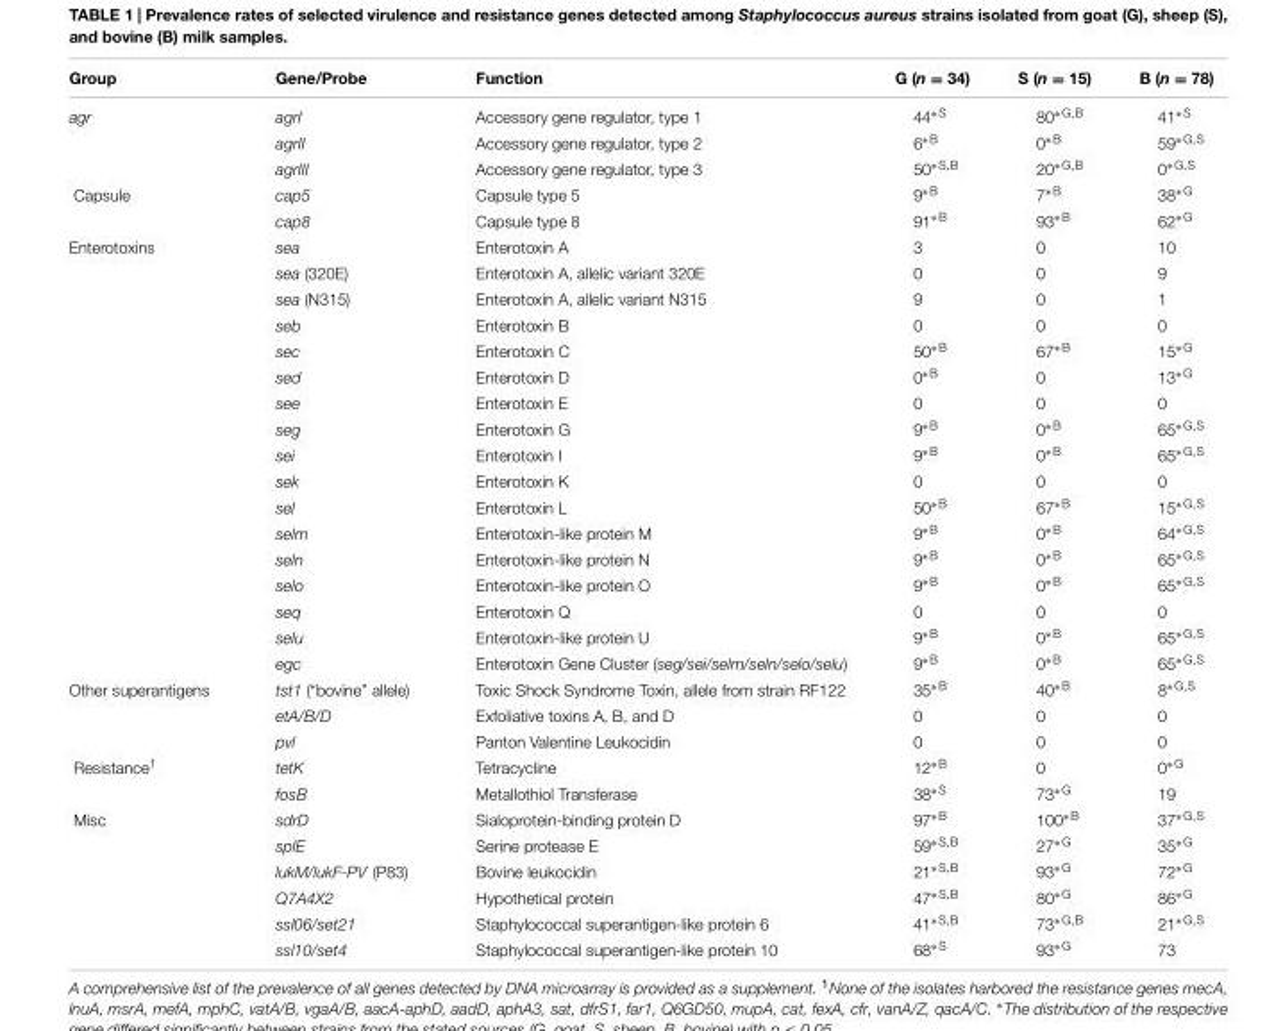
<table><thead><tr><td>Group</td><td>Gene/Probe</td><td>Function</td><td>G (n = 34)</td><td>S (n = 15)</td><td>B (n = 78)</td></tr></thead><tbody><tr><td rowspan="3">agr</td><td>agrI</td><td>Accessory gene regulator, type 1</td><td>44<sup>∗S</sup></td><td>80<sup>∗G,B</sup></td><td>41<sup>∗S</sup></td></tr><tr><td>agrII</td><td>Accessory gene regulator, type 2</td><td>6<sup>∗B</sup></td><td>0<sup>∗B</sup></td><td>59<sup>∗G,S</sup></td></tr><tr><td>agrIII</td><td>Accessory gene regulator, type 3</td><td>50<sup>∗S,B</sup></td><td>20<sup>∗G,B</sup></td><td>0<sup>∗G,S</sup></td></tr><tr><td rowspan="2">Capsule</td><td>cap5</td><td>Capsule type 5</td><td>9<sup>∗B</sup></td><td>7<sup>∗B</sup></td><td>38<sup>∗G</sup></td></tr><tr><td>cap8</td><td>Capsule type 8</td><td>91<sup>∗B</sup></td><td>93<sup>∗B</sup></td><td>62<sup>∗G</sup></td></tr><tr><td rowspan="17">Enterotoxins</td><td>sea</td><td>Enterotoxin A</td><td>3</td><td>0</td><td>10</td></tr><tr><td>sea (320E)</td><td>Enterotoxin A, allelic variant 320E</td><td>0</td><td>0</td><td>9</td></tr><tr><td>sea (N315)</td><td>Enterotoxin A, allelic variant N315</td><td>9</td><td>0</td><td>1</td></tr><tr><td>seb</td><td>Enterotoxin B</td><td>0</td><td>0</td><td>0</td></tr><tr><td>sec</td><td>Enterotoxin C</td><td>50<sup>∗B</sup></td><td>67<sup>∗B</sup></td><td>15<sup>∗G</sup></td></tr><tr><td>sed</td><td>Enterotoxin D</td><td>0<sup>∗B</sup></td><td>0</td><td>13<sup>∗G</sup></td></tr><tr><td>see</td><td>Enterotoxin E</td><td>0</td><td>0</td><td>0</td></tr><tr><td>seg</td><td>Enterotoxin G</td><td>9<sup>∗B</sup></td><td>0<sup>∗B</sup></td><td>65<sup>∗G,S</sup></td></tr><tr><td>sei</td><td>Enterotoxin I</td><td>9<sup>∗B</sup></td><td>0<sup>∗B</sup></td><td>65<sup>∗G,S</sup></td></tr><tr><td>sek</td><td>Enterotoxin K</td><td>0</td><td>0</td><td>0</td></tr><tr><td>sel</td><td>Enterotoxin L</td><td>50<sup>∗B</sup></td><td>67<sup>∗B</sup></td><td>15<sup>∗G,S</sup></td></tr><tr><td>selm</td><td>Enterotoxin-like protein M</td><td>9<sup>∗B</sup></td><td>0<sup>∗B</sup></td><td>64<sup>∗G,S</sup></td></tr><tr><td>seln</td><td>Enterotoxin-like protein N</td><td>9<sup>∗B</sup></td><td>0<sup>∗B</sup></td><td>65<sup>∗G,S</sup></td></tr><tr><td>selo</td><td>Enterotoxin-like protein O</td><td>9<sup>∗B</sup></td><td>0<sup>∗B</sup></td><td>65<sup>∗G,S</sup></td></tr><tr><td>seq</td><td>Enterotoxin Q</td><td>0</td><td>0</td><td>0</td></tr><tr><td>selu</td><td>Enterotoxin-like protein U</td><td>9<sup>∗B</sup></td><td>0<sup>∗B</sup></td><td>65<sup>∗G,S</sup></td></tr><tr><td>egc</td><td>Enterotoxin Gene Cluster (seg/sei/selm/seln/selo/selu)</td><td>9<sup>∗B</sup></td><td>0<sup>∗B</sup></td><td>65<sup>∗G,S</sup></td></tr><tr><td rowspan="3">Other superantigens</td><td>tst1 (“bovine” allele)</td><td>Toxic Shock Syndrome Toxin, allele from strain RF122</td><td>35<sup>∗B</sup></td><td>40<sup>∗B</sup></td><td>8<sup>∗G,S</sup></td></tr><tr><td>etA/B/D</td><td>Exfoliative toxins A, B, and D</td><td>0</td><td>0</td><td>0</td></tr><tr><td>pvl</td><td>Panton Valentine Leukocidin</td><td>0</td><td>0</td><td>0</td></tr><tr><td rowspan="2">Resistance<sup>1</sup></td><td>tetK</td><td>Tetracycline</td><td>12<sup>∗B</sup></td><td>0</td><td>0<sup>∗G</sup></td></tr><tr><td>fosB</td><td>Metallothiol Transferase</td><td>38<sup>∗S</sup></td><td>73<sup>∗G</sup></td><td>19</td></tr><tr><td rowspan="6">Misc</td><td>sdrD</td><td>Sialoprotein-binding protein D</td><td>97<sup>∗B</sup></td><td>100<sup>∗B</sup></td><td>37<sup>∗G,S</sup></td></tr><tr><td>splE</td><td>Serine protease E</td><td>59<sup>∗S,B</sup></td><td>27<sup>∗G</sup></td><td>35<sup>∗G</sup></td></tr><tr><td>lukM/lukF-PV (P83)</td><td>Bovine leukocidin</td><td>21<sup>∗S,B</sup></td><td>93<sup>∗G</sup></td><td>72<sup>∗G</sup></td></tr><tr><td>Q7A4X2</td><td>Hypothetical protein</td><td>47<sup>∗S,B</sup></td><td>80<sup>∗G</sup></td><td>86<sup>∗G</sup></td></tr><tr><td>ssl06/set21</td><td>Staphylococcal superantigen-like protein 6</td><td>41<sup>∗S,B</sup></td><td>73<sup>∗G,B</sup></td><td>21<sup>∗G,S</sup></td></tr><tr><td>ssl10/set4</td><td>Staphylococcal superantigen-like protein 10</td><td>68<sup>∗S</sup></td><td>93<sup>∗G</sup></td><td>73</td></tr></tbody></table>